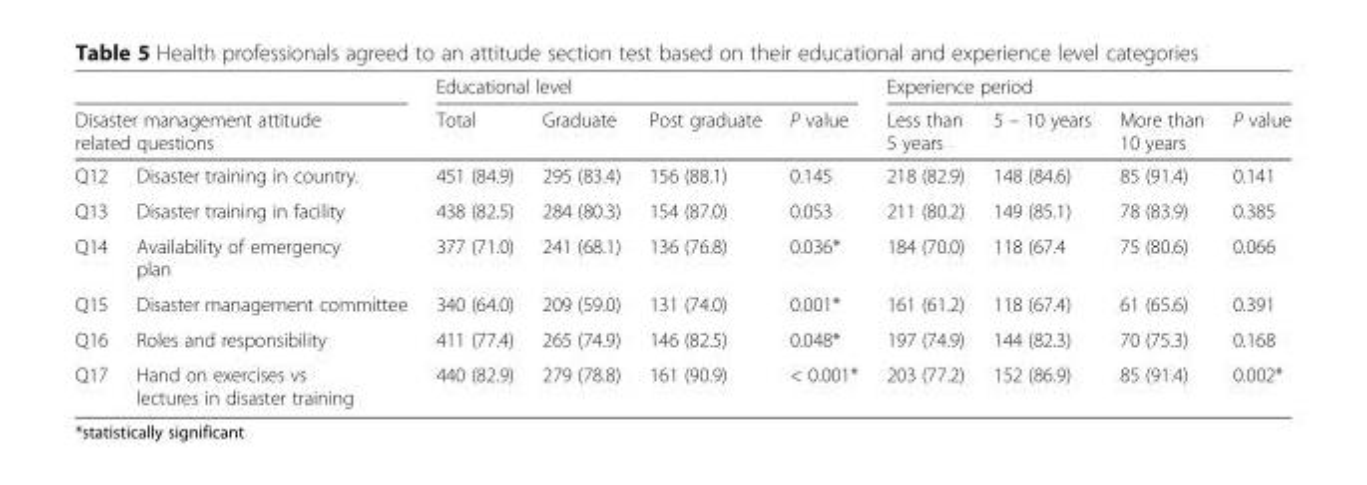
<table><thead><tr><td></td><td></td><td colspan="4">Educational level</td><td colspan="4">Experience period</td></tr><tr><td colspan="2">Disaster management attitude related questions</td><td>Total</td><td>Graduate</td><td>Post graduate</td><td>P value</td><td>Less than 5 years</td><td>5 – 10 years</td><td>More than 10 years</td><td>P value</td></tr></thead><tbody><tr><td>Q12</td><td>Disaster training in country.</td><td>451 (84.9)</td><td>295 (83.4)</td><td>156 (88.1)</td><td>0.145</td><td>218 (82.9)</td><td>148 (84.6)</td><td>85 (91.4)</td><td>0.141</td></tr><tr><td>Q13</td><td>Disaster training in facility</td><td>438 (82.5)</td><td>284 (80.3)</td><td>154 (87.0)</td><td>0.053</td><td>211 (80.2)</td><td>149 (85.1)</td><td>78 (83.9)</td><td>0.385</td></tr><tr><td>Q14</td><td>Availability of emergency plan</td><td>377 (71.0)</td><td>241 (68.1)</td><td>136 (76.8)</td><td>0.036*</td><td>184 (70.0)</td><td>118 (67.4</td><td>75 (80.6)</td><td>0.066</td></tr><tr><td>Q15</td><td>Disaster management committee</td><td>340 (64.0)</td><td>209 (59.0)</td><td>131 (74.0)</td><td>0.001*</td><td>161 (61.2)</td><td>118 (67.4)</td><td>61 (65.6)</td><td>0.391</td></tr><tr><td>Q16</td><td>Roles and responsibility</td><td>411 (77.4)</td><td>265 (74.9)</td><td>146 (82.5)</td><td>0.048*</td><td>197 (74.9)</td><td>144 (82.3)</td><td>70 (75.3)</td><td>0.168</td></tr><tr><td>Q17</td><td>Hand on exercises vs lectures in disaster training</td><td>440 (82.9)</td><td>279 (78.8)</td><td>161 (90.9)</td><td>&lt; 0.001*</td><td>203 (77.2)</td><td>152 (86.9)</td><td>85 (91.4)</td><td>0.002*</td></tr></tbody></table>